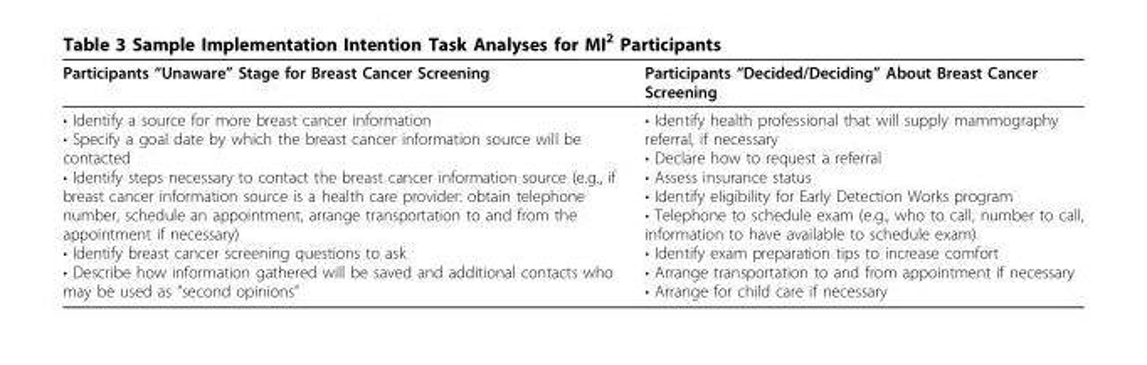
<table><thead><tr><td>Participants “Unaware” Stage for Breast Cancer Screening</td><td>Participants “Decided/Deciding” About Breast Cancer Screening</td></tr></thead><tbody><tr><td>• Identify a source for more breast cancer information • Specify a goal date by which the breast cancer information source will be contacted • Identify steps necessary to contact the breast cancer information source (e.g., if breast cancer information source is a health care provider: obtain telephone number, schedule an appointment, arrange transportation to and from the appointment if necessary) • Identify breast cancer screening questions to ask • Describe how information gathered will be saved and additional contacts who may be used as “second opinions”</td><td>• Identify health professional that will supply mammography referral, if necessary • Declare how to request a referral • Assess insurance status • Identify eligibility for Early Detection Works program • Telephone to schedule exam (e.g., who to call, number to call, information to have available to schedule exam) • Identify exam preparation tips to increase comfort • Arrange transportation to and from appointment if necessary • Arrange for child care if necessary</td></tr></tbody></table>